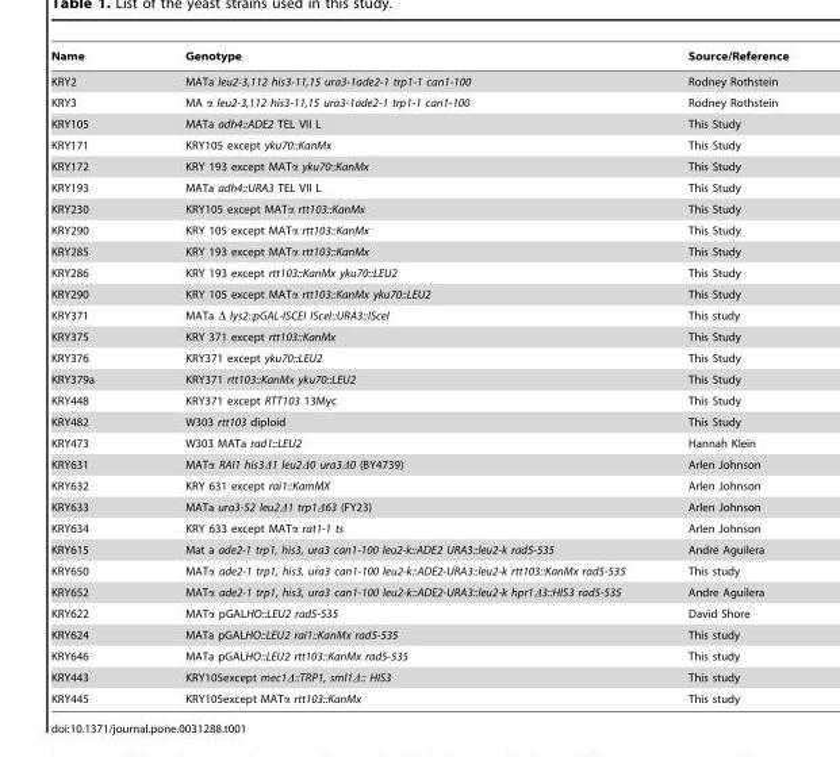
<table><thead><tr><td>Name</td><td>Genotype</td><td>Source/Reference</td></tr></thead><tbody><tr><td>KRY2</td><td>MATa leu2-3,112 his3-11,15 ura3-1ade2-1 trp1-1 can1-100</td><td>Rodney Rothstein</td></tr><tr><td>KRY3</td><td>MA α leu2-3,112 his3-11,15 ura3-1ade2-1 trp1-1 can1-100</td><td>Rodney Rothstein</td></tr><tr><td>KRY105</td><td>MATa adh4::ADE2 TEL VII L</td><td>This Study</td></tr><tr><td>KRY171</td><td>KRY105 except yku70::KanMx</td><td>This Study</td></tr><tr><td>KRY172</td><td>KRY 193 except MATα yku70::KanMx</td><td>This Study</td></tr><tr><td>KRY193</td><td>MATa adh4::URA3 TEL VII L</td><td>This Study</td></tr><tr><td>KRY230</td><td>KRY105 except MATα rtt103::KanMx</td><td>This Study</td></tr><tr><td>KRY290</td><td>KRY 105 except MATα rtt103::KanMx</td><td>This Study</td></tr><tr><td>KRY285</td><td>KRY 193 except MATα rtt103::KanMx</td><td>This Study</td></tr><tr><td>KRY286</td><td>KRY 193 except rtt103::KanMx yku70::LEU2</td><td>This Study</td></tr><tr><td>KRY290</td><td>KRY 105 except MATα rtt103::KanMx yku70::LEU2</td><td>This Study</td></tr><tr><td>KRY371</td><td>MATa Δ lys2::pGAL-ISCEI ISceI::URA3::ISceI</td><td>This study</td></tr><tr><td>KRY375</td><td>KRY 371 except rtt103::KanMx</td><td>This Study</td></tr><tr><td>KRY376</td><td>KRY371 except yku70::LEU2</td><td>This Study</td></tr><tr><td>KRY379a</td><td>KRY371 rtt103::KanMx yku70::LEU2</td><td>This Study</td></tr><tr><td>KRY448</td><td>KRY371 except RTT103 13Myc</td><td>This Study</td></tr><tr><td>KRY482</td><td>W303 rtt103 diploid</td><td>This Study</td></tr><tr><td>KRY473</td><td>W303 MATa rad1::LEU2</td><td>Hannah Klein</td></tr><tr><td>KRY631</td><td>MATα RAI1 his3Δ1 leu2Δ0 ura3Δ0 (BY4739)</td><td>Arlen Johnson</td></tr><tr><td>KRY632</td><td>KRY 631 except rai1::KamMX</td><td>Arlen Johnson</td></tr><tr><td>KRY633</td><td>MATa ura3-52 leu2Δ1 trp1Δ63 (FY23)</td><td>Arlen Johnson</td></tr><tr><td>KRY634</td><td>KRY 633 except MATα rat1-1 ts</td><td>Arlen Johnson</td></tr><tr><td>KRY615</td><td>Mat a ade2-1 trp1, his3, ura3 can1-100 leu2-k::ADE2 URA3::leu2-k rad5-535</td><td>Andre Aguilera</td></tr><tr><td>KRY650</td><td>MATα ade2-1 trp1, his3, ura3 can1-100 leu2-k::ADE2-URA3::leu2-k rtt103::KanMx rad5-535</td><td>This study</td></tr><tr><td>KRY652</td><td>MATα ade2-1 trp1, his3, ura3 can1-100 leu2-k::ADE2-URA3::leu2-k hpr1Δ3::HIS3 rad5-535</td><td>Andre Aguilera</td></tr><tr><td>KRY622</td><td>MATα pGALHO::LEU2 rad5-535</td><td>David Shore</td></tr><tr><td>KRY624</td><td>MATa pGALHO::LEU2 rai1::KanMx rad5-535</td><td>This study</td></tr><tr><td>KRY646</td><td>MATa pGALHO::LEU2 rtt103::KanMx rad5-535</td><td>This study</td></tr><tr><td>KRY443</td><td>KRY105except mec1Δ::TRP1, sml1Δ:: HIS3</td><td>This study</td></tr><tr><td>KRY445</td><td>KRY105except MATα rtt103::KanMx</td><td>This study</td></tr></tbody></table>